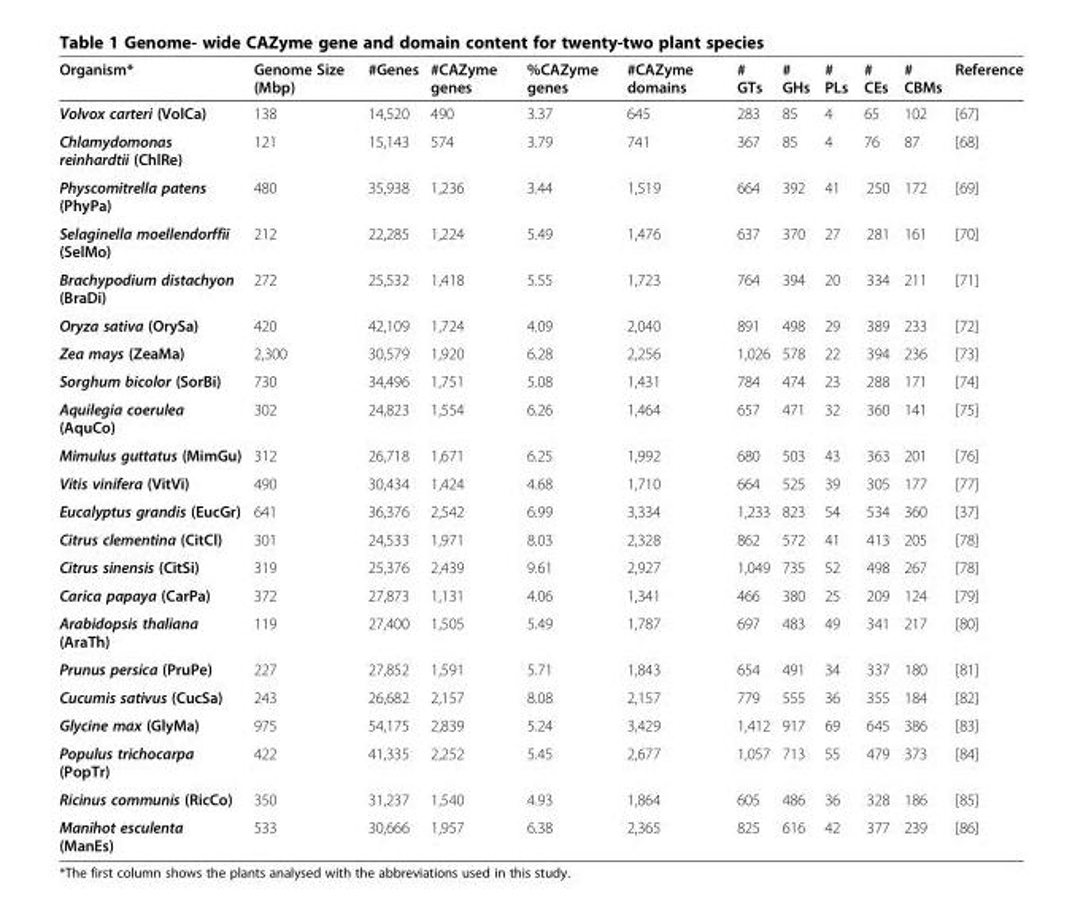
<table><thead><tr><td>Organism*</td><td>Genome Size (Mbp)</td><td>#Genes</td><td>#CAZyme genes</td><td>%CAZyme genes</td><td>#CAZyme domains</td><td># GTs</td><td># GHs</td><td># PLs</td><td># CEs</td><td># CBMs</td><td>Reference</td></tr></thead><tbody><tr><td>Volvox carteri (VolCa)</td><td>138</td><td>14,520</td><td>490</td><td>3.37</td><td>645</td><td>283</td><td>85</td><td>4</td><td>65</td><td>102</td><td>[67]</td></tr><tr><td>Chlamydomonas reinhardtii (ChlRe)</td><td>121</td><td>15,143</td><td>574</td><td>3.79</td><td>741</td><td>367</td><td>85</td><td>4</td><td>76</td><td>87</td><td>[68]</td></tr><tr><td>Physcomitrella patens (PhyPa)</td><td>480</td><td>35,938</td><td>1,236</td><td>3.44</td><td>1,519</td><td>664</td><td>392</td><td>41</td><td>250</td><td>172</td><td>[69]</td></tr><tr><td>Selaginella moellendorffii (SelMo)</td><td>212</td><td>22,285</td><td>1,224</td><td>5.49</td><td>1,476</td><td>637</td><td>370</td><td>27</td><td>281</td><td>161</td><td>[70]</td></tr><tr><td>Brachypodium distachyon (BraDi)</td><td>272</td><td>25,532</td><td>1,418</td><td>5.55</td><td>1,723</td><td>764</td><td>394</td><td>20</td><td>334</td><td>211</td><td>[71]</td></tr><tr><td>Oryza sativa (OrySa)</td><td>420</td><td>42,109</td><td>1,724</td><td>4.09</td><td>2,040</td><td>891</td><td>498</td><td>29</td><td>389</td><td>233</td><td>[72]</td></tr><tr><td>Zea mays (ZeaMa)</td><td>2,300</td><td>30,579</td><td>1,920</td><td>6.28</td><td>2,256</td><td>1,026</td><td>578</td><td>22</td><td>394</td><td>236</td><td>[73]</td></tr><tr><td>Sorghum bicolor (SorBi)</td><td>730</td><td>34,496</td><td>1,751</td><td>5.08</td><td>1,431</td><td>784</td><td>474</td><td>23</td><td>288</td><td>171</td><td>[74]</td></tr><tr><td>Aquilegia coerulea (AquCo)</td><td>302</td><td>24,823</td><td>1,554</td><td>6.26</td><td>1,464</td><td>657</td><td>471</td><td>32</td><td>360</td><td>141</td><td>[75]</td></tr><tr><td>Mimulus guttatus (MimGu)</td><td>312</td><td>26,718</td><td>1,671</td><td>6.25</td><td>1,992</td><td>680</td><td>503</td><td>43</td><td>363</td><td>201</td><td>[76]</td></tr><tr><td>Vitis vinifera (VitVi)</td><td>490</td><td>30,434</td><td>1,424</td><td>4.68</td><td>1,710</td><td>664</td><td>525</td><td>39</td><td>305</td><td>177</td><td>[77]</td></tr><tr><td>Eucalyptus grandis (EucGr)</td><td>641</td><td>36,376</td><td>2,542</td><td>6.99</td><td>3,334</td><td>1,233</td><td>823</td><td>54</td><td>534</td><td>360</td><td>[37]</td></tr><tr><td>Citrus clementina (CitCl)</td><td>301</td><td>24,533</td><td>1,971</td><td>8.03</td><td>2,328</td><td>862</td><td>572</td><td>41</td><td>413</td><td>205</td><td>[78]</td></tr><tr><td>Citrus sinensis (CitSi)</td><td>319</td><td>25,376</td><td>2,439</td><td>9.61</td><td>2,927</td><td>1,049</td><td>735</td><td>52</td><td>498</td><td>267</td><td>[78]</td></tr><tr><td>Carica papaya (CarPa)</td><td>372</td><td>27,873</td><td>1,131</td><td>4.06</td><td>1,341</td><td>466</td><td>380</td><td>25</td><td>209</td><td>124</td><td>[79]</td></tr><tr><td>Arabidopsis thaliana (AraTh)</td><td>119</td><td>27,400</td><td>1,505</td><td>5.49</td><td>1,787</td><td>697</td><td>483</td><td>49</td><td>341</td><td>217</td><td>[80]</td></tr><tr><td>Prunus persica (PruPe)</td><td>227</td><td>27,852</td><td>1,591</td><td>5.71</td><td>1,843</td><td>654</td><td>491</td><td>34</td><td>337</td><td>180</td><td>[81]</td></tr><tr><td>Cucumis sativus (CucSa)</td><td>243</td><td>26,682</td><td>2,157</td><td>8.08</td><td>2,157</td><td>779</td><td>555</td><td>36</td><td>355</td><td>184</td><td>[82]</td></tr><tr><td>Glycine max (GlyMa)</td><td>975</td><td>54,175</td><td>2,839</td><td>5.24</td><td>3,429</td><td>1,412</td><td>917</td><td>69</td><td>645</td><td>386</td><td>[83]</td></tr><tr><td>Populus trichocarpa (PopTr)</td><td>422</td><td>41,335</td><td>2,252</td><td>5.45</td><td>2,677</td><td>1,057</td><td>713</td><td>55</td><td>479</td><td>373</td><td>[84]</td></tr><tr><td>Ricinus communis (RicCo)</td><td>350</td><td>31,237</td><td>1,540</td><td>4.93</td><td>1,864</td><td>605</td><td>486</td><td>36</td><td>328</td><td>186</td><td>[85]</td></tr><tr><td>Manihot esculenta (ManEs)</td><td>533</td><td>30,666</td><td>1,957</td><td>6.38</td><td>2,365</td><td>825</td><td>616</td><td>42</td><td>377</td><td>239</td><td>[86]</td></tr></tbody></table>